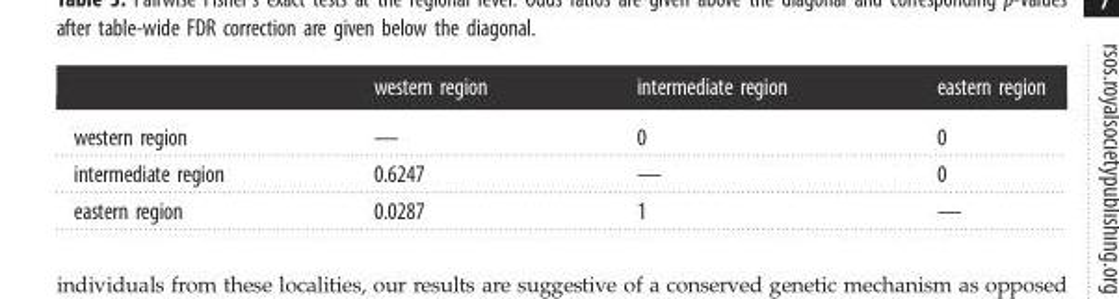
<table><thead><tr><td></td><td>western region</td><td>intermediate region</td><td>eastern region</td></tr></thead><tbody><tr><td>western region</td><td>—</td><td>0</td><td>0</td></tr><tr><td>intermediate region</td><td>0.6247</td><td>—</td><td>0</td></tr><tr><td>eastern region</td><td>0.0287</td><td>1</td><td>—</td></tr></tbody></table>